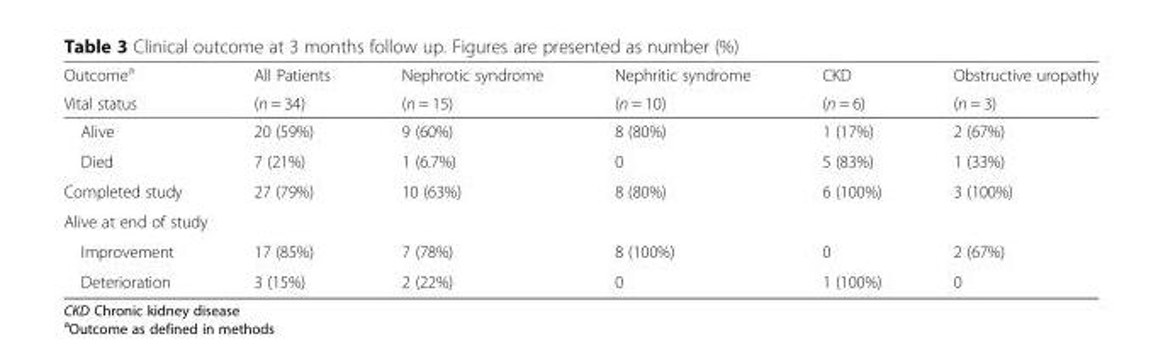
<table><thead><tr><td rowspan="2">Outcome<sup>a</sup> Vital status</td><td rowspan="2">All Patients (n = 34)</td><td rowspan="2">Nephrotic syndrome (n = 15)</td><td rowspan="2">Nephritic syndrome (n = 10)</td><td rowspan="2">CKD (n = 6)</td><td rowspan="2">Obstructive uropathy (n = 3)</td></tr><tr></tr></thead><tbody><tr><td>Alive</td><td>20 (59%)</td><td>9 (60%)</td><td>8 (80%)</td><td>1 (17%)</td><td>2 (67%)</td></tr><tr><td>Died</td><td>7 (21%)</td><td>1 (6.7%)</td><td>0</td><td>5 (83%)</td><td>1 (33%)</td></tr><tr><td>Completed study</td><td>27 (79%)</td><td>10 (63%)</td><td>8 (80%)</td><td>6 (100%)</td><td>3 (100%)</td></tr><tr><td colspan="6">Alive at end of study</td></tr><tr><td>Improvement</td><td>17 (85%)</td><td>7 (78%)</td><td>8 (100%)</td><td>0</td><td>2 (67%)</td></tr><tr><td>Deterioration</td><td>3 (15%)</td><td>2 (22%)</td><td>0</td><td>1 (100%)</td><td>0</td></tr></tbody></table>